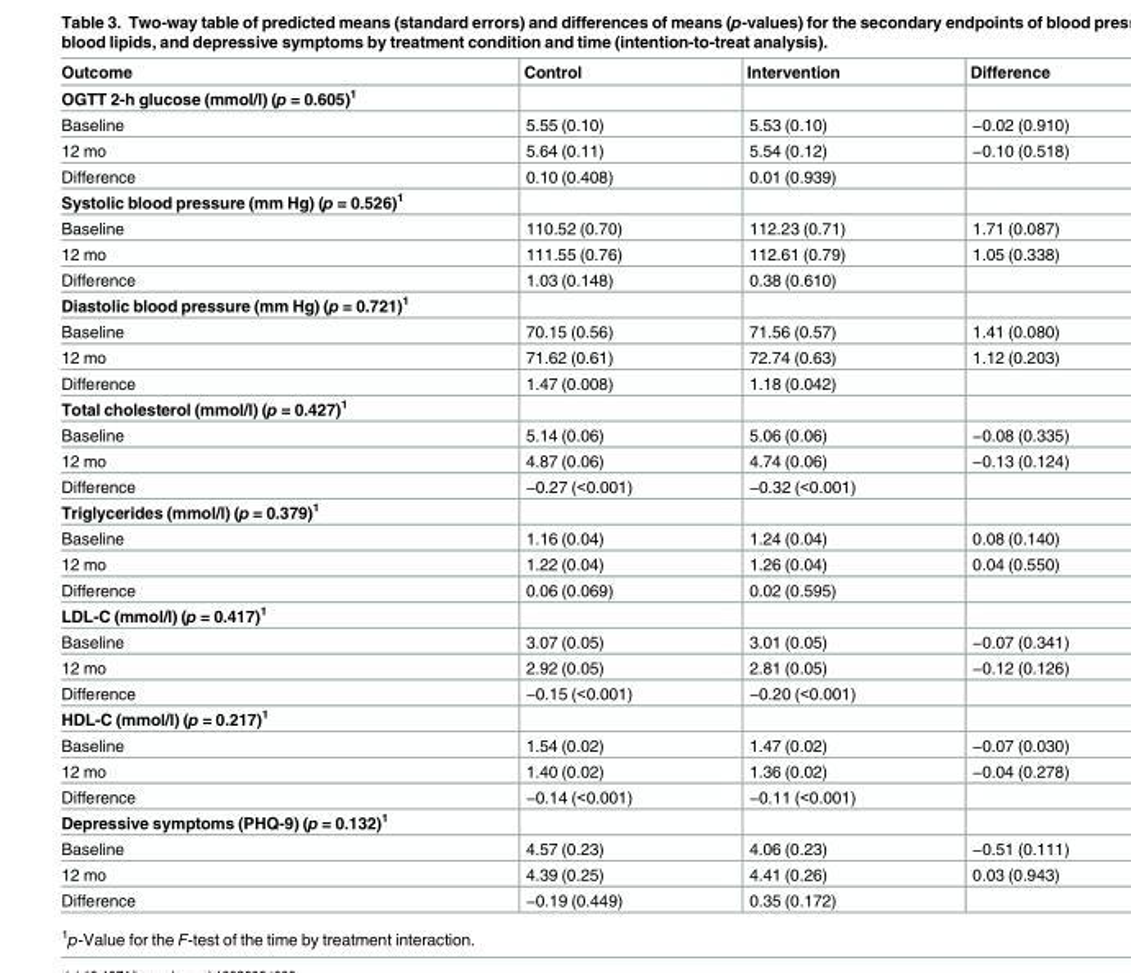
<table><thead><tr><td>Outcome</td><td>Control</td><td>Intervention</td><td>Difference</td></tr></thead><tbody><tr><td colspan="4">OGTT 2-h glucose (mmol/l) (p = 0.605)<sup>1</sup></td></tr><tr><td>Baseline</td><td>5.55 (0.10)</td><td>5.53 (0.10)</td><td>−0.02 (0.910)</td></tr><tr><td>12 mo</td><td>5.64 (0.11)</td><td>5.54 (0.12)</td><td>−0.10 (0.518)</td></tr><tr><td>Difference</td><td>0.10 (0.408)</td><td>0.01 (0.939)</td><td></td></tr><tr><td colspan="4">Systolic blood pressure (mm Hg) (p = 0.526)<sup>1</sup></td></tr><tr><td>Baseline</td><td>110.52 (0.70)</td><td>112.23 (0.71)</td><td>1.71 (0.087)</td></tr><tr><td>12 mo</td><td>111.55 (0.76)</td><td>112.61 (0.79)</td><td>1.05 (0.338)</td></tr><tr><td>Difference</td><td>1.03 (0.148)</td><td>0.38 (0.610)</td><td></td></tr><tr><td colspan="4">Diastolic blood pressure (mm Hg) (p = 0.721)<sup>1</sup></td></tr><tr><td>Baseline</td><td>70.15 (0.56)</td><td>71.56 (0.57)</td><td>1.41 (0.080)</td></tr><tr><td>12 mo</td><td>71.62 (0.61)</td><td>72.74 (0.63)</td><td>1.12 (0.203)</td></tr><tr><td>Difference</td><td>1.47 (0.008)</td><td>1.18 (0.042)</td><td></td></tr><tr><td colspan="4">Total cholesterol (mmol/l) (p = 0.427)<sup>1</sup></td></tr><tr><td>Baseline</td><td>5.14 (0.06)</td><td>5.06 (0.06)</td><td>−0.08 (0.335)</td></tr><tr><td>12 mo</td><td>4.87 (0.06)</td><td>4.74 (0.06)</td><td>−0.13 (0.124)</td></tr><tr><td>Difference</td><td>−0.27 (&lt;0.001)</td><td>−0.32 (&lt;0.001)</td><td></td></tr><tr><td colspan="4">Triglycerides (mmol/l) (p = 0.379)<sup>1</sup></td></tr><tr><td>Baseline</td><td>1.16 (0.04)</td><td>1.24 (0.04)</td><td>0.08 (0.140)</td></tr><tr><td>12 mo</td><td>1.22 (0.04)</td><td>1.26 (0.04)</td><td>0.04 (0.550)</td></tr><tr><td>Difference</td><td>0.06 (0.069)</td><td>0.02 (0.595)</td><td></td></tr><tr><td colspan="4">LDL-C (mmol/l) (p = 0.417)<sup>1</sup></td></tr><tr><td>Baseline</td><td>3.07 (0.05)</td><td>3.01 (0.05)</td><td>−0.07 (0.341)</td></tr><tr><td>12 mo</td><td>2.92 (0.05)</td><td>2.81 (0.05)</td><td>−0.12 (0.126)</td></tr><tr><td>Difference</td><td>−0.15 (&lt;0.001)</td><td>−0.20 (&lt;0.001)</td><td></td></tr><tr><td colspan="4">HDL-C (mmol/l) (p = 0.217)<sup>1</sup></td></tr><tr><td>Baseline</td><td>1.54 (0.02)</td><td>1.47 (0.02)</td><td>−0.07 (0.030)</td></tr><tr><td>12 mo</td><td>1.40 (0.02)</td><td>1.36 (0.02)</td><td>−0.04 (0.278)</td></tr><tr><td>Difference</td><td>−0.14 (&lt;0.001)</td><td>−0.11 (&lt;0.001)</td><td></td></tr><tr><td colspan="4">Depressive symptoms (PHQ-9) (p = 0.132)<sup>1</sup></td></tr><tr><td>Baseline</td><td>4.57 (0.23)</td><td>4.06 (0.23)</td><td>−0.51 (0.111)</td></tr><tr><td>12 mo</td><td>4.39 (0.25)</td><td>4.41 (0.26)</td><td>0.03 (0.943)</td></tr><tr><td>Difference</td><td>−0.19 (0.449)</td><td>0.35 (0.172)</td><td></td></tr></tbody></table>